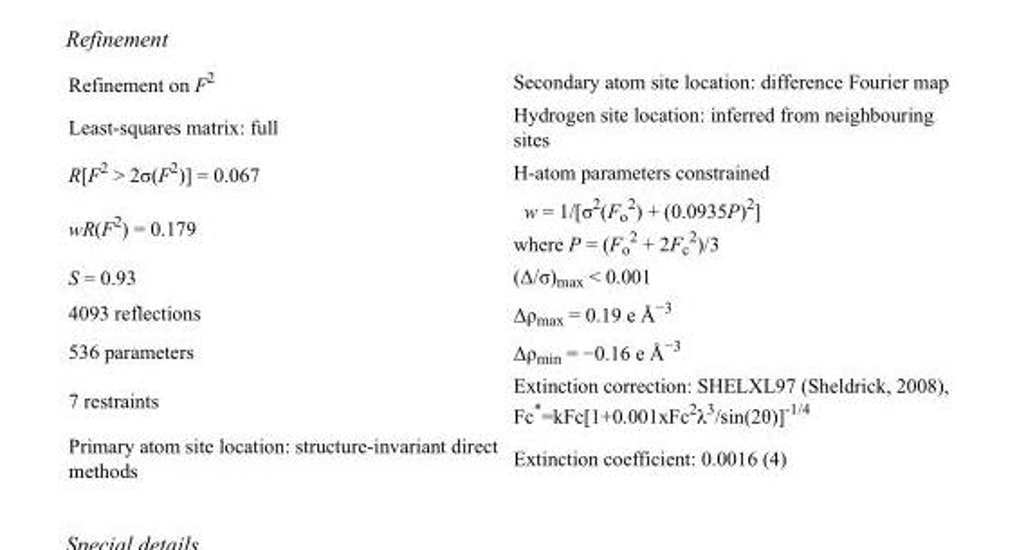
<table><tbody><tr><td>Refinement on F<sup>2</sup></td><td>Secondary atom site location: difference Fourier map</td></tr><tr><td>Least-squares matrix: full</td><td>Hydrogen site location: inferred from neighbouring sites</td></tr><tr><td>R[F<sup>2</sup> &gt; 2σ(F<sup>2</sup>)] = 0.067</td><td>H-atom parameters constrained</td></tr><tr><td>wR(F<sup>2</sup>) = 0.179</td><td>w = 1/[σ<sup>2</sup>(F<sub>o</sub> <sup>2</sup>) + (0.0935P)<sup>2</sup>] where P = (F<sub>o</sub> <sup>2</sup> + 2F<sub>c</sub> <sup>2</sup>)/3</td></tr><tr><td>S = 0.93</td><td>(Δ/σ)<sub>max</sub> &lt; 0.001</td></tr><tr><td>4093 reflections</td><td>Δρ<sub>max</sub> = 0.19 e Å<sup>−3</sup></td></tr><tr><td>536 parameters</td><td>Δρ<sub>min</sub> = −0.16 e Å<sup>−3</sup></td></tr><tr><td>7 restraints</td><td>Extinction correction: SHELXL97 (Sheldrick, 2008), Fc*=kFc[1+0.001xFc<sup>2</sup>λ<sup>3</sup>/sin(2θ)]<sup>-1/4</sup></td></tr><tr><td>Primary atom site location: structure-invariant direct methods</td><td>Extinction coefficient: 0.0016 (4)</td></tr></tbody></table>